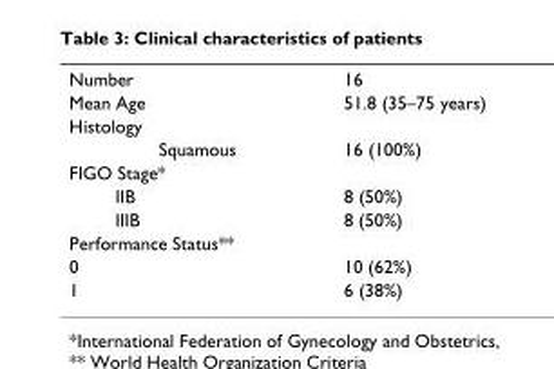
<table><tbody><tr><td>Number</td><td>16</td></tr><tr><td>Mean Age</td><td>51.8 (35–75 years)</td></tr><tr><td colspan="2">Histology</td></tr><tr><td>Squamous</td><td>16 (100%)</td></tr><tr><td colspan="2">FIGO Stage*</td></tr><tr><td>IIB</td><td>8 (50%)</td></tr><tr><td>IIIB</td><td>8 (50%)</td></tr><tr><td colspan="2">Performance Status**</td></tr><tr><td>0</td><td>10 (62%)</td></tr><tr><td>1</td><td>6 (38%)</td></tr></tbody></table>